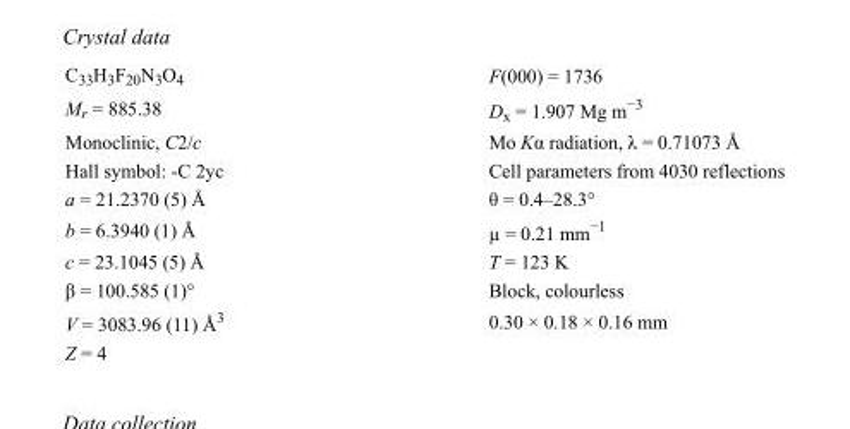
<table><tbody><tr><td>C<sub>33</sub>H<sub>3</sub>F<sub>20</sub>N<sub>3</sub>O<sub>4</sub></td><td>F(000) = 1736</td></tr><tr><td>M<sub>r</sub> = 885.38</td><td>D<sub>x</sub> = 1.907 Mg m<sup>−3</sup></td></tr><tr><td>Monoclinic, C2/c</td><td>Mo Kα radiation, λ = 0.71073 Å</td></tr><tr><td>Hall symbol: -C 2yc</td><td>Cell parameters from 4030 reflections</td></tr><tr><td>a = 21.2370 (5) Å</td><td>θ = 0.4–28.3°</td></tr><tr><td>b = 6.3940 (1) Å</td><td>µ = 0.21 mm<sup>−1</sup></td></tr><tr><td>c = 23.1045 (5) Å</td><td>T = 123 K</td></tr><tr><td>β = 100.585 (1)°</td><td>Block, colourless</td></tr><tr><td>V = 3083.96 (11) Å<sup>3</sup></td><td>0.30 × 0.18 × 0.16 mm</td></tr><tr><td>Z = 4</td><td></td></tr></tbody></table>